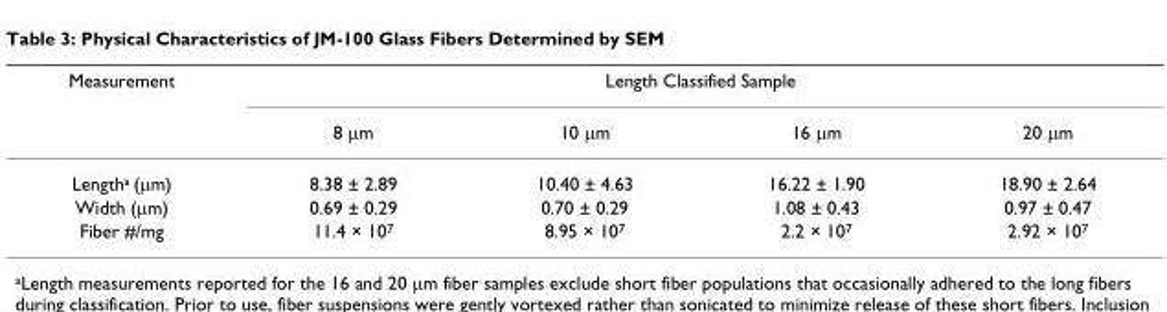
<table><thead><tr><td rowspan="2">Measurement</td><td colspan="4">Length Classified Sample</td></tr><tr><td>8 µm</td><td>10 µm</td><td>16 µm</td><td>20 µm</td></tr></thead><tbody><tr><td>Length<sup>a</sup> (µm)</td><td>8.38 ± 2.89</td><td>10.40 ± 4.63</td><td>16.22 ± 1.90</td><td>18.90 ± 2.64</td></tr><tr><td>Width (µm)</td><td>0.69 ± 0.29</td><td>0.70 ± 0.29</td><td>1.08 ± 0.43</td><td>0.97 ± 0.47</td></tr><tr><td>Fiber #/mg</td><td>11.4 × 10<sup>7</sup></td><td>8.95 × 10<sup>7</sup></td><td>2.2 × 10<sup>7</sup></td><td>2.92 × 10<sup>7</sup></td></tr></tbody></table>